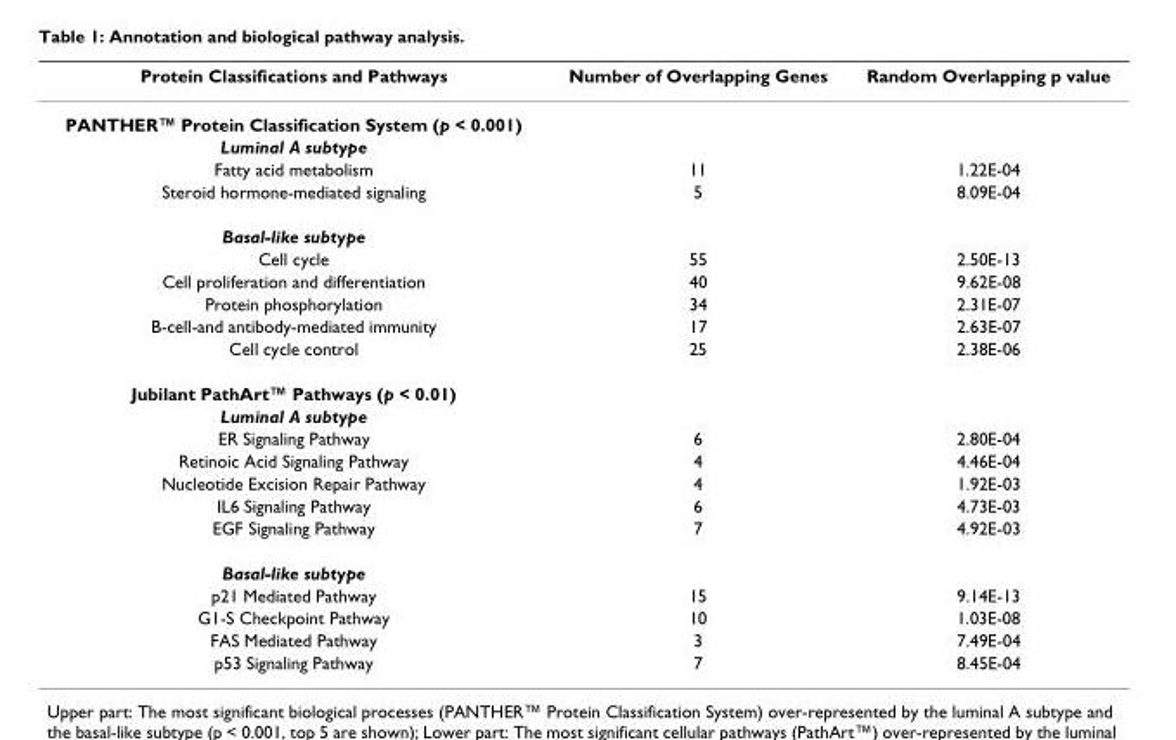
<table><thead><tr><td>Protein Classifications and Pathways</td><td>Number of Overlapping Genes</td><td>Random Overlapping p value</td></tr></thead><tbody><tr><td colspan="3">PANTHER™ Protein Classification System (p &lt; 0.001)</td></tr><tr><td colspan="3">Luminal A subtype</td></tr><tr><td>Fatty acid metabolism</td><td>11</td><td>1.22E-04</td></tr><tr><td>Steroid hormone-mediated signaling</td><td>5</td><td>8.09E-04</td></tr><tr><td colspan="3">Basal-like subtype</td></tr><tr><td>Cell cycle</td><td>55</td><td>2.50E-13</td></tr><tr><td>Cell proliferation and differentiation</td><td>40</td><td>9.62E-08</td></tr><tr><td>Protein phosphorylation</td><td>34</td><td>2.31E-07</td></tr><tr><td>B-cell-and antibody-mediated immunity</td><td>17</td><td>2.63E-07</td></tr><tr><td>Cell cycle control</td><td>25</td><td>2.38E-06</td></tr><tr><td colspan="3">Jubilant PathArt™ Pathways (p &lt; 0.01)</td></tr><tr><td colspan="3">Luminal A subtype</td></tr><tr><td>ER Signaling Pathway</td><td>6</td><td>2.80E-04</td></tr><tr><td>Retinoic Acid Signaling Pathway</td><td>4</td><td>4.46E-04</td></tr><tr><td>Nucleotide Excision Repair Pathway</td><td>4</td><td>1.92E-03</td></tr><tr><td>IL6 Signaling Pathway</td><td>6</td><td>4.73E-03</td></tr><tr><td>EGF Signaling Pathway</td><td>7</td><td>4.92E-03</td></tr><tr><td colspan="3">Basal-like subtype</td></tr><tr><td>p21 Mediated Pathway</td><td>15</td><td>9.14E-13</td></tr><tr><td>G1-S Checkpoint Pathway</td><td>10</td><td>1.03E-08</td></tr><tr><td>FAS Mediated Pathway</td><td>3</td><td>7.49E-04</td></tr><tr><td>p53 Signaling Pathway</td><td>7</td><td>8.45E-04</td></tr></tbody></table>